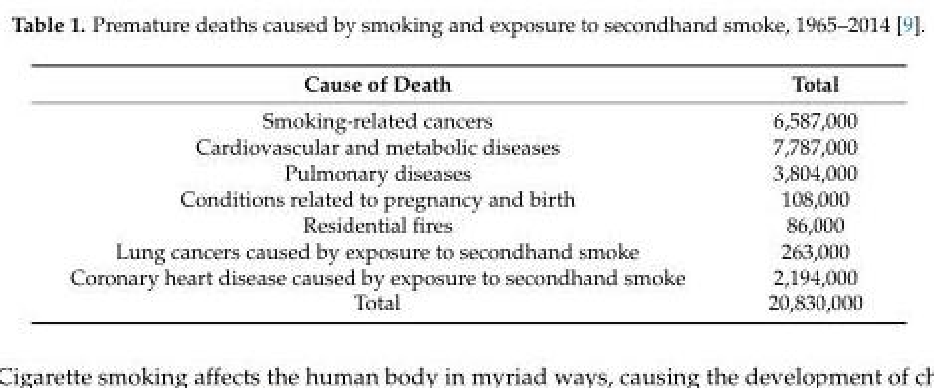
<table><thead><tr><td>Cause of Death</td><td>Total</td></tr></thead><tbody><tr><td>Smoking-related cancers</td><td>6,587,000</td></tr><tr><td>Cardiovascular and metabolic diseases</td><td>7,787,000</td></tr><tr><td>Pulmonary diseases</td><td>3,804,000</td></tr><tr><td>Conditions related to pregnancy and birth</td><td>108,000</td></tr><tr><td>Residential fires</td><td>86,000</td></tr><tr><td>Lung cancers caused by exposure to secondhand smoke</td><td>263,000</td></tr><tr><td>Coronary heart disease caused by exposure to secondhand smoke</td><td>2,194,000</td></tr><tr><td>Total</td><td>20,830,000</td></tr></tbody></table>